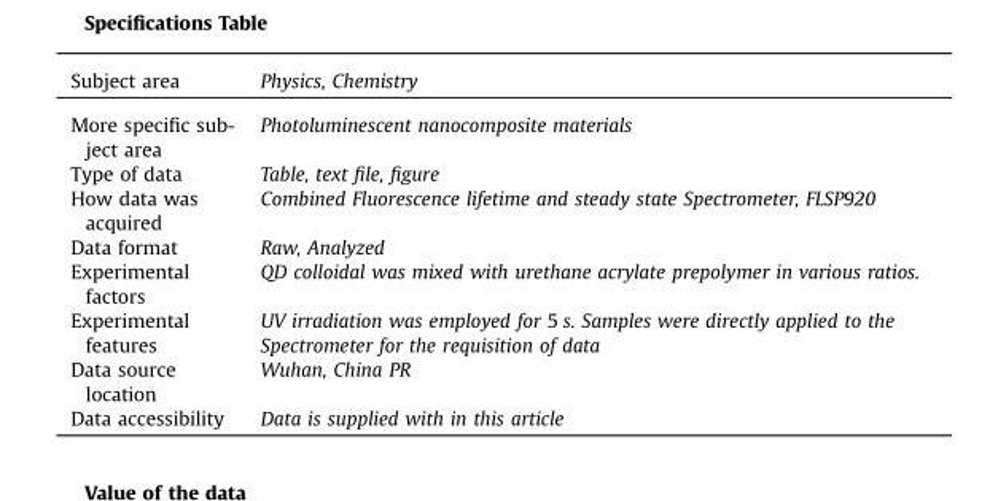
<table><thead><tr><td>Subject area</td><td>Physics, Chemistry</td></tr></thead><tbody><tr><td>More specific sub- ject area</td><td>Photoluminescent nanocomposite materials</td></tr><tr><td>Type of data</td><td>Table, text file, figure</td></tr><tr><td>How data was acquired</td><td>Combined Fluorescence lifetime and steady state Spectrometer, FLSP920</td></tr><tr><td>Data format</td><td>Raw, Analyzed</td></tr><tr><td>Experimental factors</td><td>QD colloidal was mixed with urethane acrylate prepolymer in various ratios.</td></tr><tr><td>Experimental features</td><td>UV irradiation was employed for 5 s. Samples were directly applied to the Spectrometer for the requisition of data</td></tr><tr><td>Data source location</td><td>Wuhan, China PR</td></tr><tr><td>Data accessibility</td><td>Data is supplied with in this article</td></tr></tbody></table>